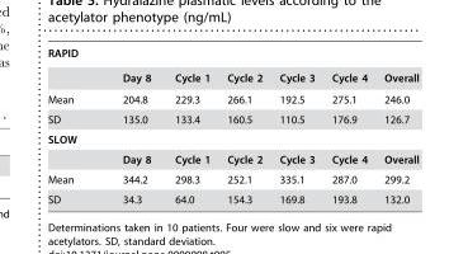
<table><thead><tr><td colspan="7">RAPID</td></tr><tr><td></td><td>Day 8</td><td>Cycle 1</td><td>Cycle 2</td><td>Cycle 3</td><td>Cycle 4</td><td>Overall</td></tr></thead><tbody><tr><td>Mean</td><td>204.8</td><td>229.3</td><td>266.1</td><td>192.5</td><td>275.1</td><td>246.0</td></tr><tr><td>SD</td><td>135.0</td><td>133.4</td><td>160.5</td><td>110.5</td><td>176.9</td><td>126.7</td></tr><tr><td colspan="7">SLOW</td></tr><tr><td></td><td>Day 8</td><td>Cycle 1</td><td>Cycle 2</td><td>Cycle 3</td><td>Cycle 4</td><td>Overall</td></tr><tr><td>Mean</td><td>344.2</td><td>298.3</td><td>252.1</td><td>335.1</td><td>287.0</td><td>299.2</td></tr><tr><td>SD</td><td>34.3</td><td>64.0</td><td>154.3</td><td>169.8</td><td>193.8</td><td>132.0</td></tr></tbody></table>